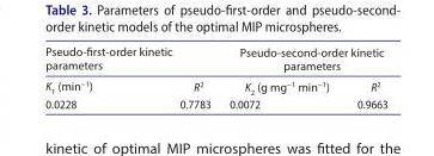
<table><thead><tr><td colspan="2">Pseudo-first-order kinetic parameters</td><td colspan="2">Pseudo-second-order kinetic parameters</td></tr><tr><td>K<sub>1</sub> (min<sup>−1</sup>)</td><td>R<sup>2</sup></td><td>K<sub>2</sub> (g mg<sup>−1</sup> min<sup>−1</sup>)</td><td>R<sup>2</sup></td></tr></thead><tbody><tr><td>0.0228</td><td>0.7783</td><td>0.0072</td><td>0.9663</td></tr></tbody></table>